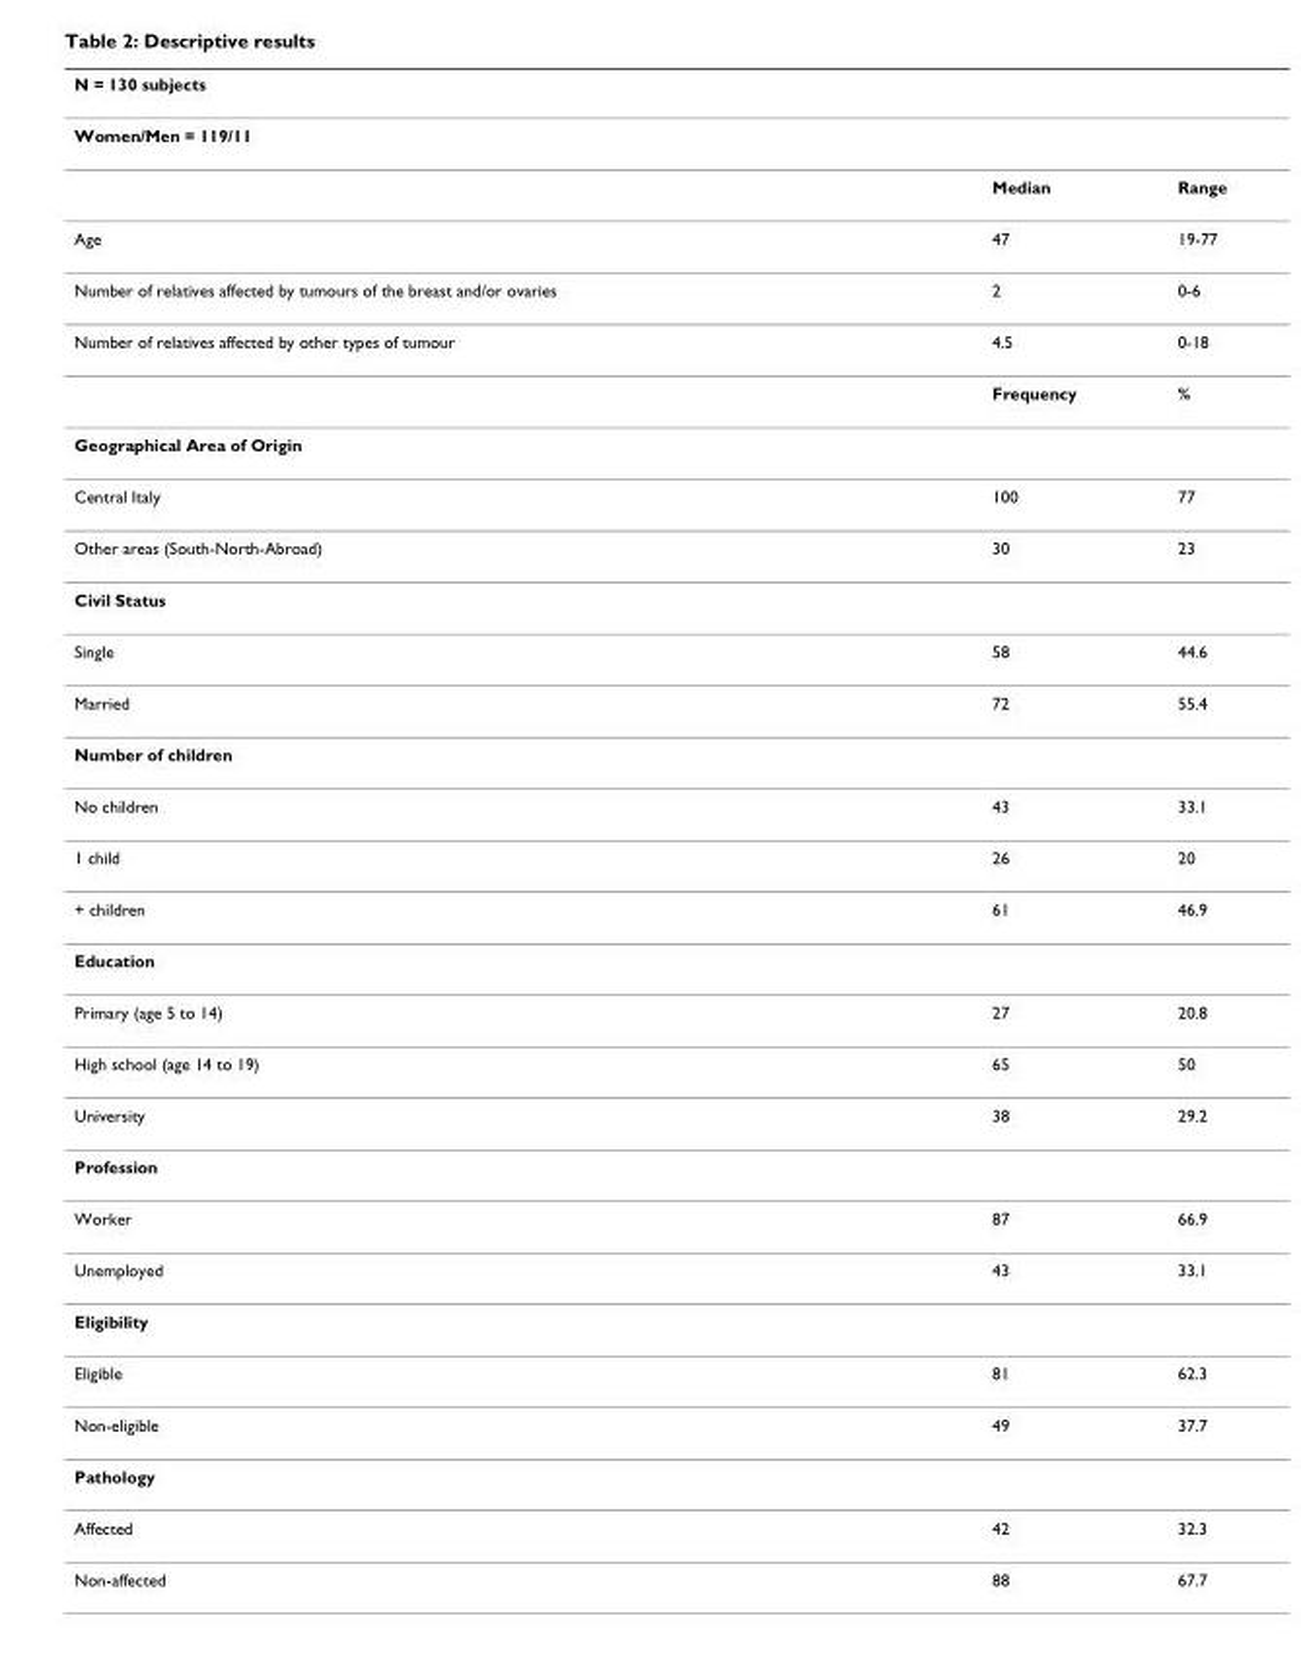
<table><thead><tr><td>N = 130 subjects</td><td></td><td></td></tr></thead><tbody><tr><td colspan="3">Women/Men = 119/11</td></tr><tr><td></td><td>Median</td><td>Range</td></tr><tr><td>Age</td><td>47</td><td>19-77</td></tr><tr><td>Number of relatives affected by tumours of the breast and/or ovaries</td><td>2</td><td>0-6</td></tr><tr><td rowspan="2">Number of relatives affected by other types of tumour</td><td>4.5</td><td>0-18</td></tr><tr><td>Frequency</td><td>%</td></tr><tr><td colspan="3">Geographical Area of Origin</td></tr><tr><td>Central Italy</td><td>100</td><td>77</td></tr><tr><td>Other areas (South-North-Abroad)</td><td>30</td><td>23</td></tr><tr><td colspan="3">Civil Status</td></tr><tr><td>Single</td><td>58</td><td>44.6</td></tr><tr><td>Married</td><td>72</td><td>55.4</td></tr><tr><td colspan="3">Number of children</td></tr><tr><td>No children</td><td>43</td><td>33.1</td></tr><tr><td>1 child</td><td>26</td><td>20</td></tr><tr><td>+ children</td><td>61</td><td>46.9</td></tr><tr><td colspan="3">Education</td></tr><tr><td>Primary (age 5 to 14)</td><td>27</td><td>20.8</td></tr><tr><td>High school (age 14 to 19)</td><td>65</td><td>50</td></tr><tr><td>University</td><td>38</td><td>29.2</td></tr><tr><td colspan="3">Profession</td></tr><tr><td>Worker</td><td>87</td><td>66.9</td></tr><tr><td>Unemployed</td><td>43</td><td>33.1</td></tr><tr><td colspan="3">Eligibility</td></tr><tr><td>Eligible</td><td>81</td><td>62.3</td></tr><tr><td>Non-eligible</td><td>49</td><td>37.7</td></tr><tr><td colspan="3">Pathology</td></tr><tr><td>Affected</td><td>42</td><td>32.3</td></tr><tr><td>Non-affected</td><td>88</td><td>67.7</td></tr></tbody></table>